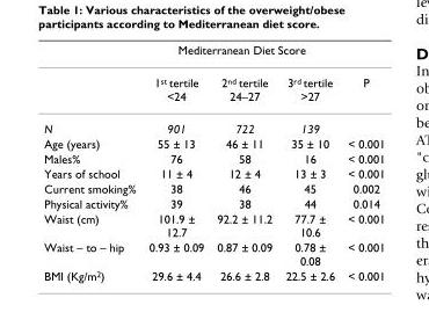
<table><thead><tr><td rowspan="2"></td><td colspan="3">Mediterranean Diet Score</td><td rowspan="2">P</td></tr><tr><td>1<sup>st</sup> tertile &lt;24</td><td>2<sup>nd</sup> tertile 24–27</td><td>3<sup>rd</sup> tertile &gt;27</td></tr></thead><tbody><tr><td>N</td><td>901</td><td>722</td><td>139</td><td></td></tr><tr><td>Age (years)</td><td>55 ± 13</td><td>46 ± 11</td><td>35 ± 10</td><td>&lt; 0.001</td></tr><tr><td>Males%</td><td>76</td><td>58</td><td>16</td><td>&lt; 0.001</td></tr><tr><td>Years of school</td><td>11 ± 4</td><td>12 ± 4</td><td>13 ± 3</td><td>&lt; 0.001</td></tr><tr><td>Current smoking%</td><td>38</td><td>46</td><td>45</td><td>0.002</td></tr><tr><td>Physical activity%</td><td>39</td><td>38</td><td>44</td><td>0.014</td></tr><tr><td>Waist (cm)</td><td>101.9 ± 12.7</td><td>92.2 ± 11.2</td><td>77.7 ± 10.6</td><td>&lt; 0.001</td></tr><tr><td>Waist – to – hip</td><td>0.93 ± 0.09</td><td>0.87 ± 0.09</td><td>0.78 ± 0.08</td><td>&lt; 0.001</td></tr><tr><td>BMI (Kg/m<sup>2</sup>)</td><td>29.6 ± 4.4</td><td>26.6 ± 2.8</td><td>22.5 ± 2.6</td><td>&lt; 0.001</td></tr></tbody></table>